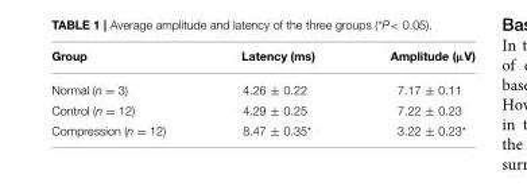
<table><thead><tr><td>Group</td><td>Latency (ms)</td><td>Amplitude (µV)</td></tr></thead><tbody><tr><td>Normal (n = 3)</td><td>4.26 ± 0.22</td><td>7.17 ± 0.11</td></tr><tr><td>Control (n = 12)</td><td>4.29 ± 0.25</td><td>7.22 ± 0.23</td></tr><tr><td>Compression (n = 12)</td><td>8.47 ± 0.35*</td><td>3.22 ± 0.23*</td></tr></tbody></table>